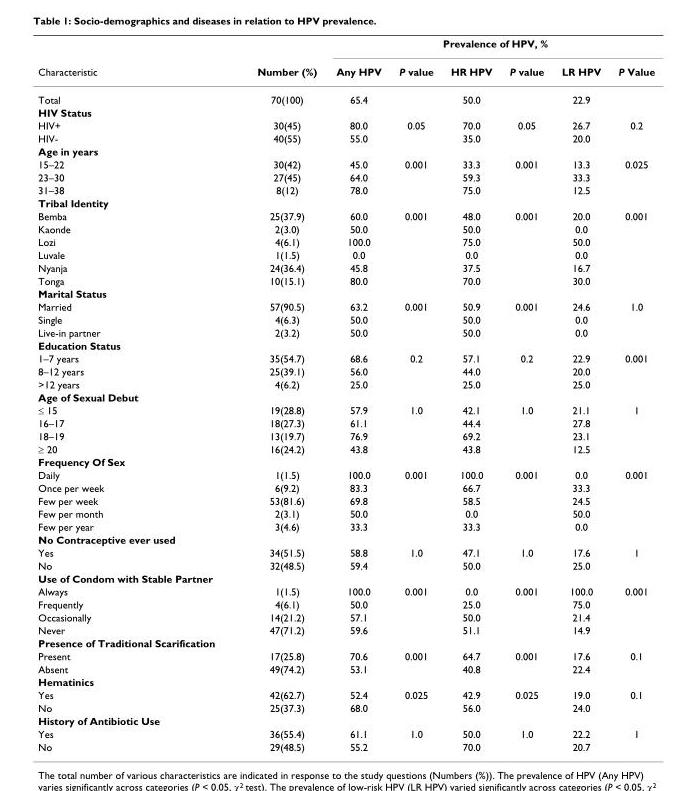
<table><thead><tr><td rowspan="2">Characteristic</td><td rowspan="2">Number (%)</td><td colspan="6">Prevalence of HPV, %</td></tr><tr><td>Any HPV</td><td>P value</td><td>HR HPV</td><td>P value</td><td>LR HPV</td><td>P Value</td></tr></thead><tbody><tr><td>Total</td><td>70(100)</td><td>65.4</td><td></td><td>50.0</td><td></td><td>22.9</td><td></td></tr><tr><td colspan="8">HIV Status</td></tr><tr><td>HIV+</td><td>30(45)</td><td>80.0</td><td>0.05</td><td>70.0</td><td>0.05</td><td>26.7</td><td>0.2</td></tr><tr><td>HIV-</td><td>40(55)</td><td>55.0</td><td></td><td>35.0</td><td></td><td>20.0</td><td></td></tr><tr><td colspan="8">Age in years</td></tr><tr><td>15–22</td><td>30(42)</td><td>45.0</td><td>0.001</td><td>33.3</td><td>0.001</td><td>13.3</td><td>0.025</td></tr><tr><td>23–30</td><td>27(45)</td><td>64.0</td><td></td><td>59.3</td><td></td><td>33.3</td><td></td></tr><tr><td>31–38</td><td>8(12)</td><td>78.0</td><td></td><td>75.0</td><td></td><td>12.5</td><td></td></tr><tr><td colspan="8">Tribal Identity</td></tr><tr><td>Bemba</td><td>25(37.9)</td><td>60.0</td><td>0.001</td><td>48.0</td><td>0.001</td><td>20.0</td><td>0.001</td></tr><tr><td>Kaonde</td><td>2(3.0)</td><td>50.0</td><td></td><td>50.0</td><td></td><td>0.0</td><td></td></tr><tr><td>Lozi</td><td>4(6.1)</td><td>100.0</td><td></td><td>75.0</td><td></td><td>50.0</td><td></td></tr><tr><td>Luvale</td><td>1(1.5)</td><td>0.0</td><td></td><td>0.0</td><td></td><td>0.0</td><td></td></tr><tr><td>Nyanja</td><td>24(36.4)</td><td>45.8</td><td></td><td>37.5</td><td></td><td>16.7</td><td></td></tr><tr><td>Tonga</td><td>10(15.1)</td><td>80.0</td><td></td><td>70.0</td><td></td><td>30.0</td><td></td></tr><tr><td colspan="8">Marital Status</td></tr><tr><td>Married</td><td>57(90.5)</td><td>63.2</td><td>0.001</td><td>50.9</td><td>0.001</td><td>24.6</td><td>1.0</td></tr><tr><td>Single</td><td>4(6.3)</td><td>50.0</td><td></td><td>50.0</td><td></td><td>0.0</td><td></td></tr><tr><td>Live-in partner</td><td>2(3.2)</td><td>50.0</td><td></td><td>50.0</td><td></td><td>0.0</td><td></td></tr><tr><td colspan="8">Education Status</td></tr><tr><td>1–7 years</td><td>35(54.7)</td><td>68.6</td><td>0.2</td><td>57.1</td><td>0.2</td><td>22.9</td><td>0.001</td></tr><tr><td>8–12 years</td><td>25(39.1)</td><td>56.0</td><td></td><td>44.0</td><td></td><td>20.0</td><td></td></tr><tr><td>&gt;12 years</td><td>4(6.2)</td><td>25.0</td><td></td><td>25.0</td><td></td><td>25.0</td><td></td></tr><tr><td colspan="8">Age of Sexual Debut</td></tr><tr><td>≤ 15</td><td>19(28.8)</td><td>57.9</td><td>1.0</td><td>42.1</td><td>1.0</td><td>21.1</td><td>1</td></tr><tr><td>16–17</td><td>18(27.3)</td><td>61.1</td><td></td><td>44.4</td><td></td><td>27.8</td><td></td></tr><tr><td>18–19</td><td>13(19.7)</td><td>76.9</td><td></td><td>69.2</td><td></td><td>23.1</td><td></td></tr><tr><td>≥ 20</td><td>16(24.2)</td><td>43.8</td><td></td><td>43.8</td><td></td><td>12.5</td><td></td></tr><tr><td colspan="8">Frequency Of Sex</td></tr><tr><td>Daily</td><td>1(1.5)</td><td>100.0</td><td>0.001</td><td>100.0</td><td>0.001</td><td>0.0</td><td>0.001</td></tr><tr><td>Once per week</td><td>6(9.2)</td><td>83.3</td><td></td><td>66.7</td><td></td><td>33.3</td><td></td></tr><tr><td>Few per week</td><td>53(81.6)</td><td>69.8</td><td></td><td>58.5</td><td></td><td>24.5</td><td></td></tr><tr><td>Few per month</td><td>2(3.1)</td><td>50.0</td><td></td><td>0.0</td><td></td><td>50.0</td><td></td></tr><tr><td>Few per year</td><td>3(4.6)</td><td>33.3</td><td></td><td>33.3</td><td></td><td>0.0</td><td></td></tr><tr><td colspan="8">No Contraceptive ever used</td></tr><tr><td>Yes</td><td>34(51.5)</td><td>58.8</td><td>1.0</td><td>47.1</td><td>1.0</td><td>17.6</td><td>1</td></tr><tr><td>No</td><td>32(48.5)</td><td>59.4</td><td></td><td>50.0</td><td></td><td>25.0</td><td></td></tr><tr><td colspan="8">Use of Condom with Stable Partner</td></tr><tr><td>Always</td><td>1(1.5)</td><td>100.0</td><td>0.001</td><td>0.0</td><td>0.001</td><td>100.0</td><td>0.001</td></tr><tr><td>Frequently</td><td>4(6.1)</td><td>50.0</td><td></td><td>25.0</td><td></td><td>75.0</td><td></td></tr><tr><td>Occasionally</td><td>14(21.2)</td><td>57.1</td><td></td><td>50.0</td><td></td><td>21.4</td><td></td></tr><tr><td>Never</td><td>47(71.2)</td><td>59.6</td><td></td><td>51.1</td><td></td><td>14.9</td><td></td></tr><tr><td colspan="8">Presence of Traditional Scarification</td></tr><tr><td>Present</td><td>17(25.8)</td><td>70.6</td><td>0.001</td><td>64.7</td><td>0.001</td><td>17.6</td><td>0.1</td></tr><tr><td>Absent</td><td>49(74.2)</td><td>53.1</td><td></td><td>40.8</td><td></td><td>22.4</td><td></td></tr><tr><td colspan="8">Hematinics</td></tr><tr><td>Yes</td><td>42(62.7)</td><td>52.4</td><td>0.025</td><td>42.9</td><td>0.025</td><td>19.0</td><td>0.1</td></tr><tr><td>No</td><td>25(37.3)</td><td>68.0</td><td></td><td>56.0</td><td></td><td>24.0</td><td></td></tr><tr><td colspan="8">History of Antibiotic Use</td></tr><tr><td>Yes</td><td>36(55.4)</td><td>61.1</td><td>1.0</td><td>50.0</td><td>1.0</td><td>22.2</td><td>1</td></tr><tr><td>No</td><td>29(48.5)</td><td>55.2</td><td></td><td>70.0</td><td></td><td>20.7</td><td></td></tr></tbody></table>